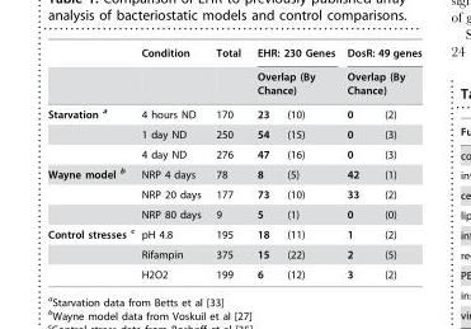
<table><thead><tr><td rowspan="3">Starvation a</td><td rowspan="3">Condition 4 hours ND</td><td rowspan="3">Total 170</td><td rowspan="2" colspan="2">EHR: 230 Genes Overlap (By Chance)</td><td rowspan="2" colspan="2">DosR: 49 genes Overlap (By Chance)</td></tr><tr></tr><tr><td>23</td><td>(10)</td><td>0</td><td>(2)</td></tr></thead><tbody><tr><td></td><td>1 day ND</td><td>250</td><td>54</td><td>(15)</td><td>0</td><td>(3)</td></tr><tr><td></td><td>4 day ND</td><td>276</td><td>47</td><td>(16)</td><td>0</td><td>(3)</td></tr><tr><td rowspan="3">Wayne model b</td><td>NRP 4 days</td><td>78</td><td>8</td><td>(5)</td><td>42</td><td>(1)</td></tr><tr><td>NRP 20 days</td><td>177</td><td>73</td><td>(10)</td><td>33</td><td>(2)</td></tr><tr><td>NRP 80 days</td><td>9</td><td>5</td><td>(1)</td><td>0</td><td>(0)</td></tr><tr><td rowspan="3">Control stresses c</td><td>pH 4.8</td><td>195</td><td>18</td><td>(11)</td><td>1</td><td>(2)</td></tr><tr><td>Rifampin</td><td>375</td><td>15</td><td>(22)</td><td>2</td><td>(5)</td></tr><tr><td>H2O2</td><td>199</td><td>6</td><td>(12)</td><td>3</td><td>(2)</td></tr></tbody></table>